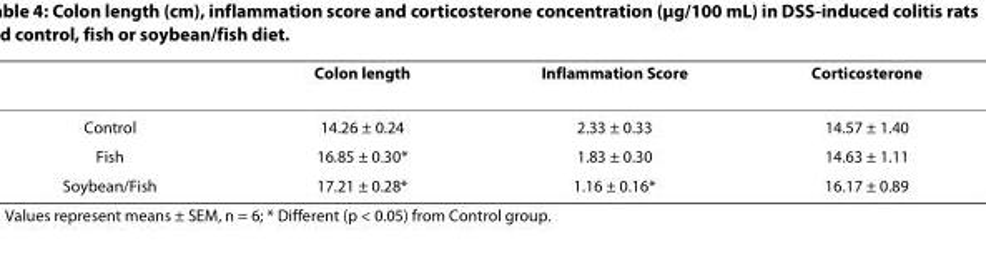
<table><thead><tr><td></td><td>Colon length</td><td>Inflammation Score</td><td>Corticosterone</td></tr></thead><tbody><tr><td>Control</td><td>14.26 ± 0.24</td><td>2.33 ± 0.33</td><td>14.57 ± 1.40</td></tr><tr><td>Fish</td><td>16.85 ± 0.30*</td><td>1.83 ± 0.30</td><td>14.63 ± 1.11</td></tr><tr><td>Soybean/Fish</td><td>17.21 ± 0.28*</td><td>1.16 ± 0.16*</td><td>16.17 ± 0.89</td></tr></tbody></table>